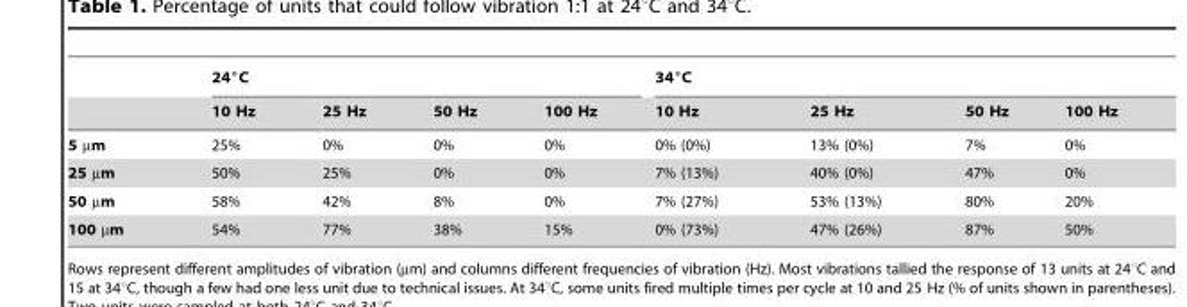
<table><thead><tr><td rowspan="2"></td><td colspan="4">24°C</td><td colspan="4">34°C</td></tr><tr><td>10 Hz</td><td>25 Hz</td><td>50 Hz</td><td>100 Hz</td><td>10 Hz</td><td>25 Hz</td><td>50 Hz</td><td>100 Hz</td></tr></thead><tbody><tr><td>5 µm</td><td>25%</td><td>0%</td><td>0%</td><td>0%</td><td>0% (0%)</td><td>13% (0%)</td><td>7%</td><td>0%</td></tr><tr><td>25 µm</td><td>50%</td><td>25%</td><td>0%</td><td>0%</td><td>7% (13%)</td><td>40% (0%)</td><td>47%</td><td>0%</td></tr><tr><td>50 µm</td><td>58%</td><td>42%</td><td>8%</td><td>0%</td><td>7% (27%)</td><td>53% (13%)</td><td>80%</td><td>20%</td></tr><tr><td>100 µm</td><td>54%</td><td>77%</td><td>38%</td><td>15%</td><td>0% (73%)</td><td>47% (26%)</td><td>87%</td><td>50%</td></tr></tbody></table>